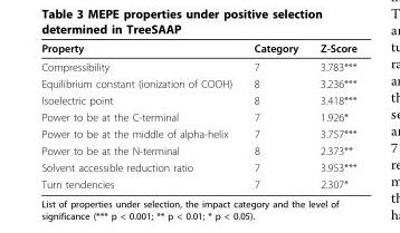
<table><thead><tr><td>Property</td><td>Category</td><td>Z-Score</td></tr></thead><tbody><tr><td>Compressibility</td><td>7</td><td>3.783***</td></tr><tr><td>Equilibrium constant (ionization of COOH)</td><td>8</td><td>3.236***</td></tr><tr><td>Isoelectric point</td><td>8</td><td>3.418***</td></tr><tr><td>Power to be at the C-terminal</td><td>7</td><td>1.926*</td></tr><tr><td>Power to be at the middle of alpha-helix</td><td>7</td><td>3.757***</td></tr><tr><td>Power to be at the N-terminal</td><td>8</td><td>2.373**</td></tr><tr><td>Solvent accessible reduction ratio</td><td>7</td><td>3.953***</td></tr><tr><td>Turn tendencies</td><td>7</td><td>2.307*</td></tr></tbody></table>